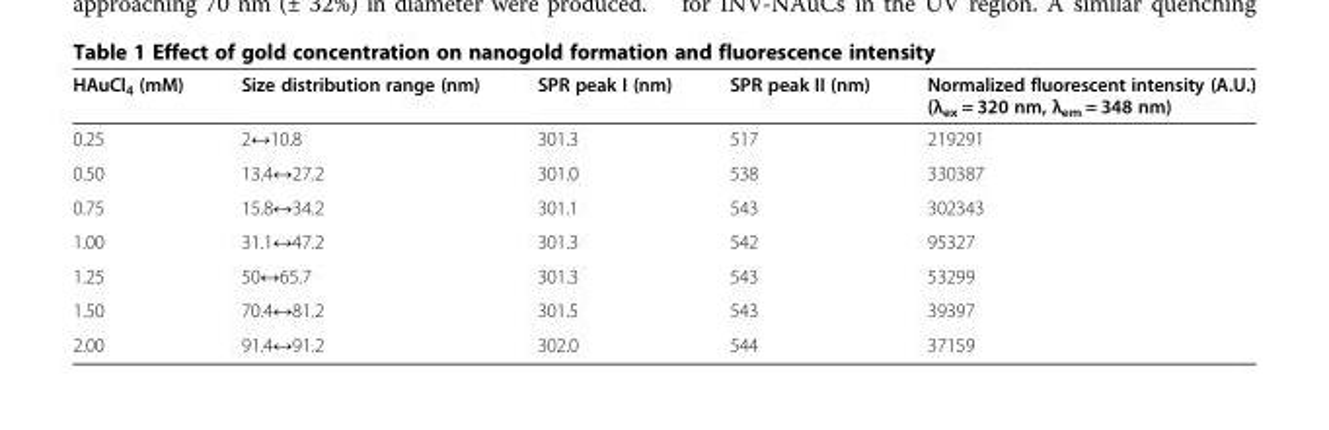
<table><thead><tr><td>HAuCl<sub>4</sub> (mM)</td><td>Size distribution range (nm)</td><td>SPR peak I (nm)</td><td>SPR peak II (nm)</td><td>Normalized fluorescent intensity (A.U.) (λ<sub>ex</sub> = 320 nm, λ<sub>em</sub> = 348 nm)</td></tr></thead><tbody><tr><td>0.25</td><td>2↔10.8</td><td>301.3</td><td>517</td><td>219291</td></tr><tr><td>0.50</td><td>13.4↔27.2</td><td>301.0</td><td>538</td><td>330387</td></tr><tr><td>0.75</td><td>15.8↔34.2</td><td>301.1</td><td>543</td><td>302343</td></tr><tr><td>1.00</td><td>31.1↔47.2</td><td>301.3</td><td>542</td><td>95327</td></tr><tr><td>1.25</td><td>50↔65.7</td><td>301.3</td><td>543</td><td>53299</td></tr><tr><td>1.50</td><td>70.4↔81.2</td><td>301.5</td><td>543</td><td>39397</td></tr><tr><td>2.00</td><td>91.4↔91.2</td><td>302.0</td><td>544</td><td>37159</td></tr></tbody></table>